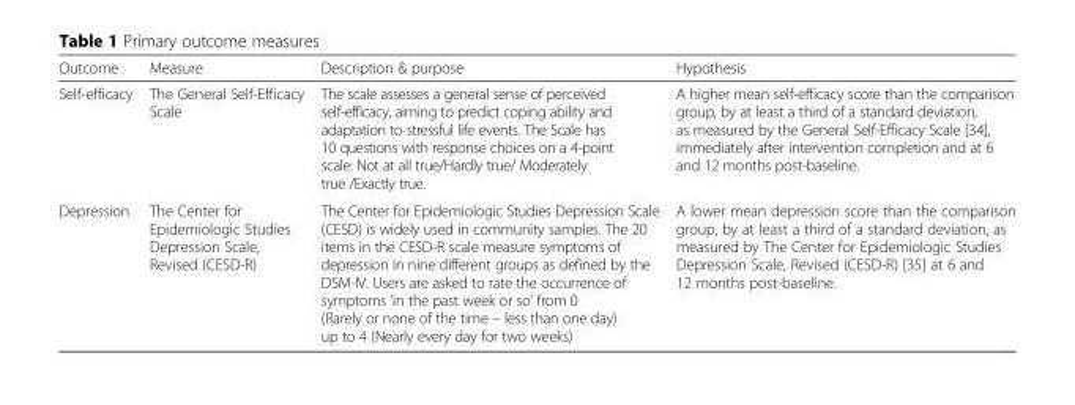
<table><thead><tr><td>Outcome</td><td>Measure</td><td>Description &amp; purpose</td><td>Hypothesis</td></tr></thead><tbody><tr><td>Self-efficacy</td><td>The General Self-Efficacy Scale</td><td>The scale assesses a general sense of perceived self-efficacy, aiming to predict coping ability and adaptation to stressful life events. The Scale has 10 questions with response choices on a 4-point scale: Not at all true/Hardly true/ Moderately true /Exactly true.</td><td>A higher mean self-efficacy score than the comparison group, by at least a third of a standard deviation, as measured by the General Self-Efficacy Scale [34], immediately after intervention completion and at 6 and 12 months post-baseline.</td></tr><tr><td>Depression</td><td>The Center for Epidemiologic Studies Depression Scale, Revised (CESD-R)</td><td>The Center for Epidemiologic Studies Depression Scale (CESD) is widely used in community samples. The 20 items in the CESD-R scale measure symptoms of depression in nine different groups as defined by the DSM-IV. Users are asked to rate the occurrence of symptoms ‘in the past week or so’ from 0 (Rarely or none of the time – less than one day) up to 4 (Nearly every day for two weeks)</td><td>A lower mean depression score than the comparison group, by at least a third of a standard deviation, as measured by The Center for Epidemiologic Studies Depression Scale, Revised (CESD-R) [35] at 6 and 12 months post-baseline.</td></tr></tbody></table>